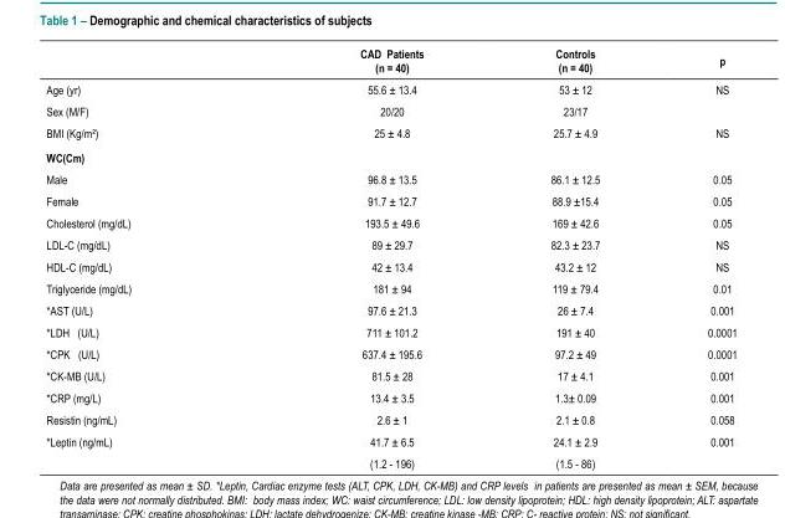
<table><thead><tr><td></td><td>CAD Patients (n = 40)</td><td>Controls (n = 40)</td><td>p</td></tr></thead><tbody><tr><td>Age (yr)</td><td>55.6 ± 13.4</td><td>53 ± 12</td><td>NS</td></tr><tr><td>Sex (M/F)</td><td>20/20</td><td>23/17</td><td></td></tr><tr><td>BMI (Kg/m²)</td><td>25 ± 4.8</td><td>25.7 ± 4.9</td><td>NS</td></tr><tr><td colspan="4">WC(Cm)</td></tr><tr><td>Male</td><td>96.8 ± 13.5</td><td>86.1 ± 12.5</td><td>0.05</td></tr><tr><td>Female</td><td>91.7 ± 12.7</td><td>88.9 ±15.4</td><td>0.05</td></tr><tr><td>Cholesterol (mg/dL)</td><td>193.5 ± 49.6</td><td>169 ± 42.6</td><td>0.05</td></tr><tr><td>LDL-C (mg/dL)</td><td>89 ± 29.7</td><td>82.3 ± 23.7</td><td>NS</td></tr><tr><td>HDL-C (mg/dL)</td><td>42 ± 13.4</td><td>43.2 ± 12</td><td>NS</td></tr><tr><td>Triglyceride (mg/dL)</td><td>181 ± 94</td><td>119 ± 79.4</td><td>0.01</td></tr><tr><td>*AST (U/L)</td><td>97.6 ± 21.3</td><td>26 ± 7.4</td><td>0.001</td></tr><tr><td>*LDH (U/L)</td><td>711 ± 101.2</td><td>191 ± 40</td><td>0.0001</td></tr><tr><td>*CPK (U/L)</td><td>637.4 ± 195.6</td><td>97.2 ± 49</td><td>0.0001</td></tr><tr><td>*CK-MB (U/L)</td><td>81.5 ± 28</td><td>17 ± 4.1</td><td>0.001</td></tr><tr><td>*CRP (mg/L)</td><td>13.4 ± 3.5</td><td>1.3± 0.09</td><td>0.001</td></tr><tr><td>Resistin (ng/mL)</td><td>2.6 ± 1</td><td>2.1 ± 0.8</td><td>0.058</td></tr><tr><td rowspan="2">*Leptin (ng/mL)</td><td>41.7 ± 6.5</td><td>24.1 ± 2.9</td><td>0.001</td></tr><tr><td>(1.2 - 196)</td><td>(1.5 - 86)</td><td></td></tr></tbody></table>